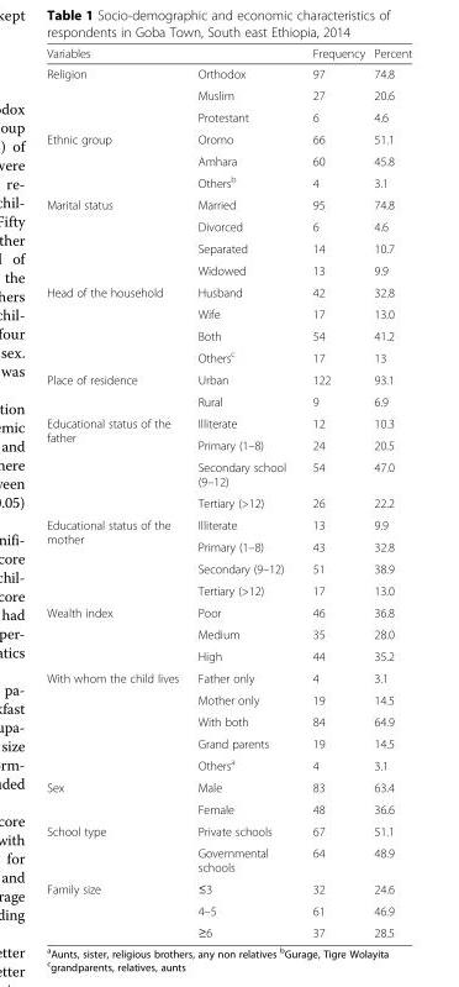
<table><thead><tr><td>Variables</td><td></td><td>Frequency</td><td>Percent</td></tr></thead><tbody><tr><td rowspan="3">Religion</td><td>Orthodox</td><td>97</td><td>74.8</td></tr><tr><td>Muslim</td><td>27</td><td>20.6</td></tr><tr><td>Protestant</td><td>6</td><td>4.6</td></tr><tr><td rowspan="3">Ethnic group</td><td>Oromo</td><td>66</td><td>51.1</td></tr><tr><td>Amhara</td><td>60</td><td>45.8</td></tr><tr><td>Others<sup>b</sup></td><td>4</td><td>3.1</td></tr><tr><td rowspan="4">Marital status</td><td>Married</td><td>95</td><td>74.8</td></tr><tr><td>Divorced</td><td>6</td><td>4.6</td></tr><tr><td>Separated</td><td>14</td><td>10.7</td></tr><tr><td>Widowed</td><td>13</td><td>9.9</td></tr><tr><td rowspan="4">Head of the household</td><td>Husband</td><td>42</td><td>32.8</td></tr><tr><td>Wife</td><td>17</td><td>13.0</td></tr><tr><td>Both</td><td>54</td><td>41.2</td></tr><tr><td>Others<sup>c</sup></td><td>17</td><td>13</td></tr><tr><td rowspan="2">Place of residence</td><td>Urban</td><td>122</td><td>93.1</td></tr><tr><td>Rural</td><td>9</td><td>6.9</td></tr><tr><td rowspan="4">Educational status of the father</td><td>Illiterate</td><td>12</td><td>10.3</td></tr><tr><td>Primary (1–8)</td><td>24</td><td>20.5</td></tr><tr><td>Secondary school (9–12)</td><td>54</td><td>47.0</td></tr><tr><td>Tertiary (&gt;12)</td><td>26</td><td>22.2</td></tr><tr><td rowspan="4">Educational status of the mother</td><td>Illiterate</td><td>13</td><td>9.9</td></tr><tr><td>Primary (1–8)</td><td>43</td><td>32.8</td></tr><tr><td>Secondary (9–12)</td><td>51</td><td>38.9</td></tr><tr><td>Tertiary (&gt;12)</td><td>17</td><td>13.0</td></tr><tr><td rowspan="3">Wealth index</td><td>Poor</td><td>46</td><td>36.8</td></tr><tr><td>Medium</td><td>35</td><td>28.0</td></tr><tr><td>High</td><td>44</td><td>35.2</td></tr><tr><td rowspan="5">With whom the child lives</td><td>Father only</td><td>4</td><td>3.1</td></tr><tr><td>Mother only</td><td>19</td><td>14.5</td></tr><tr><td>With both</td><td>84</td><td>64.9</td></tr><tr><td>Grand parents</td><td>19</td><td>14.5</td></tr><tr><td>Others<sup>a</sup></td><td>4</td><td>3.1</td></tr><tr><td rowspan="2">Sex</td><td>Male</td><td>83</td><td>63.4</td></tr><tr><td>Female</td><td>48</td><td>36.6</td></tr><tr><td rowspan="2">School type</td><td>Private schools</td><td>67</td><td>51.1</td></tr><tr><td>Governmental schools</td><td>64</td><td>48.9</td></tr><tr><td rowspan="3">Family size</td><td>≤3</td><td>32</td><td>24.6</td></tr><tr><td>4–5</td><td>61</td><td>46.9</td></tr><tr><td>≥6</td><td>37</td><td>28.5</td></tr></tbody></table>